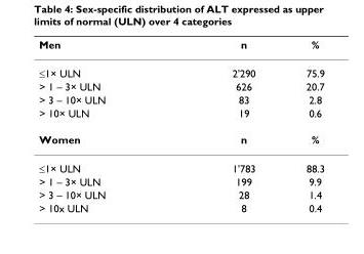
<table><thead><tr><td>Men</td><td>n</td><td>%</td></tr></thead><tbody><tr><td>≤1× ULN</td><td>2&#x27;290</td><td>75.9</td></tr><tr><td>&gt; 1 – 3× ULN</td><td>626</td><td>20.7</td></tr><tr><td>&gt; 3 – 10× ULN</td><td>83</td><td>2.8</td></tr><tr><td>&gt; 10× ULN</td><td>19</td><td>0.6</td></tr><tr><td>Women</td><td>n</td><td>%</td></tr><tr><td>≤1× ULN</td><td>1&#x27;783</td><td>88.3</td></tr><tr><td>&gt; 1 – 3× ULN</td><td>199</td><td>9.9</td></tr><tr><td>&gt; 3 – 10× ULN</td><td>28</td><td>1.4</td></tr><tr><td>&gt; 10x ULN</td><td>8</td><td>0.4</td></tr></tbody></table>